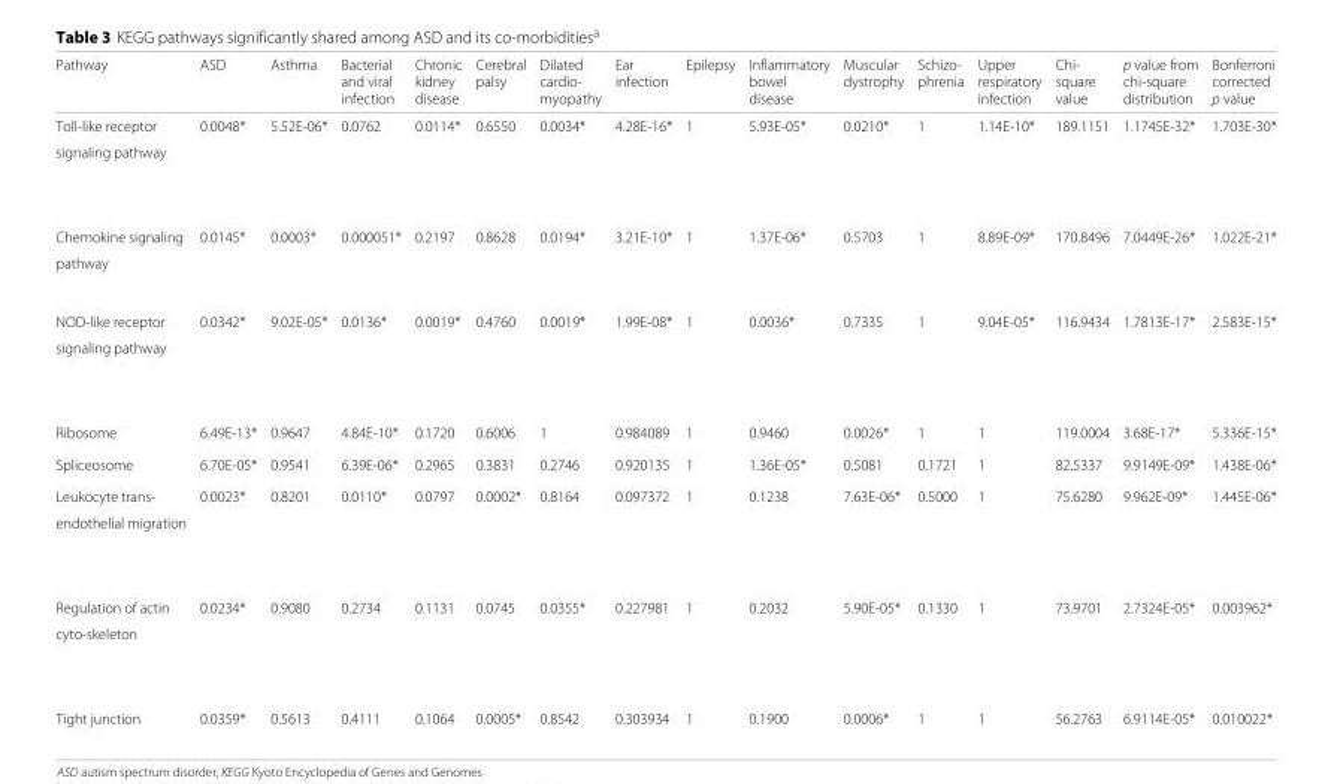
<table><thead><tr><td rowspan="3">Pathway</td><td rowspan="3">ASD</td><td rowspan="3">Asthma</td><td rowspan="3">Bacterial and viral infection</td><td rowspan="3">Chronic kidney disease</td><td rowspan="3">Cerebral palsy</td><td rowspan="3">Dilated cardio- myopathy</td><td rowspan="3">Ear infection</td><td rowspan="3">Epilepsy</td><td rowspan="3">Inflammatory bowel disease</td><td rowspan="3">Muscular dystrophy</td><td rowspan="3">Schizo- phrenia</td><td rowspan="3">Upper respiratory infection</td><td rowspan="3">Chi- square value</td><td rowspan="3">p value from chi-square distribution</td><td rowspan="3">Bonferroni corrected p value</td></tr><tr></tr><tr></tr></thead><tbody><tr><td>Toll-like receptor</td><td>0.0048*</td><td>5.52E-06*</td><td>0.0762</td><td>0.0114*</td><td>0.6550</td><td>0.0034*</td><td>4.28E-16*</td><td>1</td><td>5.93E-05*</td><td>0.0210*</td><td>1</td><td>1.14E-10*</td><td>189.1151</td><td>1.1745E-32*</td><td>1.703E-30*</td></tr><tr><td colspan="16">signaling pathway</td></tr><tr><td>Chemokine signaling</td><td>0.0145*</td><td>0.0003*</td><td>0.000051*</td><td>0.2197</td><td>0.8628</td><td>0.0194*</td><td>3.21E-10*</td><td>1</td><td>1.37E-06*</td><td>0.5703</td><td>1</td><td>8.89E-09*</td><td>170.8496</td><td>7.0449E-26*</td><td>1.022E-21*</td></tr><tr><td colspan="16">pathway</td></tr><tr><td>NOD-like receptor</td><td>0.0342*</td><td>9.02E-05*</td><td>0.0136*</td><td>0.0019*</td><td>0.4760</td><td>0.0019*</td><td>1.99E-08*</td><td>1</td><td>0.0036*</td><td>0.7335</td><td>1</td><td>9.04E-05*</td><td>116.9434</td><td>1.7813E-17*</td><td>2.583E-15*</td></tr><tr><td colspan="16">signaling pathway</td></tr><tr><td>Ribosome</td><td>6.49E-13*</td><td>0.9647</td><td>4.84E-10*</td><td>0.1720</td><td>0.6006</td><td>1</td><td>0.984089</td><td>1</td><td>0.9460</td><td>0.0026*</td><td>1</td><td>1</td><td>119.0004</td><td>3.68E-17*</td><td>5.336E-15*</td></tr><tr><td>Spliceosome</td><td>6.70E-05*</td><td>0.9541</td><td>6.39E-06*</td><td>0.2965</td><td>0.3831</td><td>0.2746</td><td>0.920135</td><td>1</td><td>1.36E-05*</td><td>0.5081</td><td>0.1721</td><td>1</td><td>82.5337</td><td>9.9149E-09*</td><td>1.438E-06*</td></tr><tr><td>Leukocyte trans-</td><td>0.0023*</td><td>0.8201</td><td>0.0110*</td><td>0.0797</td><td>0.0002*</td><td>0.8164</td><td>0.097372</td><td>1</td><td>0.1238</td><td>7.63E-06*</td><td>0.5000</td><td>1</td><td>75.6280</td><td>9.962E-09*</td><td>1.445E-06*</td></tr><tr><td colspan="16">endothelial migration</td></tr><tr><td>Regulation of actin</td><td>0.0234*</td><td>0.9080</td><td>0.2734</td><td>0.1131</td><td>0.0745</td><td>0.0355*</td><td>0.227981</td><td>1</td><td>0.2032</td><td>5.90E-05*</td><td>0.1330</td><td>1</td><td>73.9701</td><td>2.7324E-05*</td><td>0.003962*</td></tr><tr><td colspan="16">cyto-skeleton</td></tr><tr><td>Tight junction</td><td>0.0359*</td><td>0.5613</td><td>0.4111</td><td>0.1064</td><td>0.0005*</td><td>0.8542</td><td>0.303934</td><td>1</td><td>0.1900</td><td>0.0006*</td><td>1</td><td>1</td><td>56.2763</td><td>6.9114E-05*</td><td>0.010022*</td></tr></tbody></table>